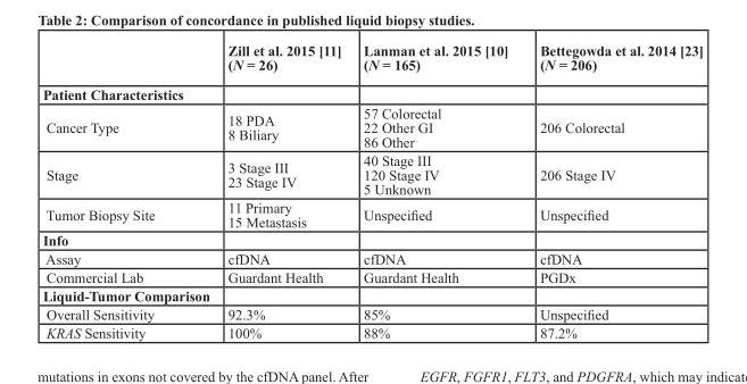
<table><thead><tr><td></td><td>Zill et al. 2015 [11] (N = 26)</td><td>Lanman et al. 2015 [10] (N = 165)</td><td>Bettegowda et al. 2014 [23] (N = 206)</td></tr></thead><tbody><tr><td colspan="4">Patient Characteristics</td></tr><tr><td>Cancer Type</td><td>18 PDA 8 Biliary</td><td>57 Colorectal 22 Other GI 86 Other</td><td>206 Colorectal</td></tr><tr><td>Stage</td><td>3 Stage III 23 Stage IV</td><td>40 Stage III 120 Stage IV 5 Unknown</td><td>206 Stage IV</td></tr><tr><td>Tumor Biopsy Site</td><td>11 Primary 15 Metastasis</td><td>Unspecified</td><td>Unspecified</td></tr><tr><td colspan="4">Info</td></tr><tr><td>Assay</td><td>cfDNA</td><td>cfDNA</td><td>cfDNA</td></tr><tr><td>Commercial Lab</td><td>Guardant Health</td><td>Guardant Health</td><td>PGDx</td></tr><tr><td colspan="4">Liquid-Tumor Comparison</td></tr><tr><td>Overall Sensitivity</td><td>92.3%</td><td>85%</td><td>Unspecified</td></tr><tr><td>KRAS Sensitivity</td><td>100%</td><td>88%</td><td>87.2%</td></tr></tbody></table>